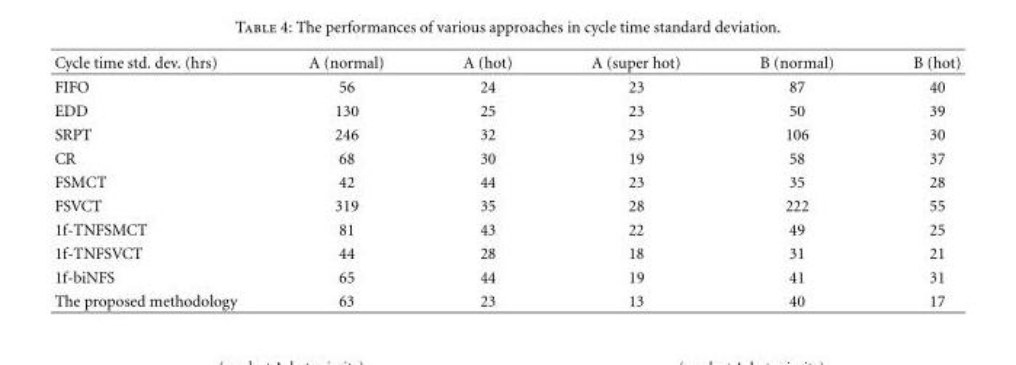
<table><thead><tr><td>Cycle time std. dev. (hrs)</td><td>A (normal)</td><td>A (hot)</td><td>A (super hot)</td><td>B (normal)</td><td>B (hot)</td></tr></thead><tbody><tr><td>FIFO</td><td>56</td><td>24</td><td>23</td><td>87</td><td>40</td></tr><tr><td>EDD</td><td>130</td><td>25</td><td>23</td><td>50</td><td>39</td></tr><tr><td>SRPT</td><td>246</td><td>32</td><td>23</td><td>106</td><td>30</td></tr><tr><td>CR</td><td>68</td><td>30</td><td>19</td><td>58</td><td>37</td></tr><tr><td>FSMCT</td><td>42</td><td>44</td><td>23</td><td>35</td><td>28</td></tr><tr><td>FSVCT</td><td>319</td><td>35</td><td>28</td><td>222</td><td>55</td></tr><tr><td>1f-TNFSMCT</td><td>81</td><td>43</td><td>22</td><td>49</td><td>25</td></tr><tr><td>1f-TNFSVCT</td><td>44</td><td>28</td><td>18</td><td>31</td><td>21</td></tr><tr><td>1f-biNFS</td><td>65</td><td>44</td><td>19</td><td>41</td><td>31</td></tr><tr><td>The proposed methodology</td><td>63</td><td>23</td><td>13</td><td>40</td><td>17</td></tr></tbody></table>